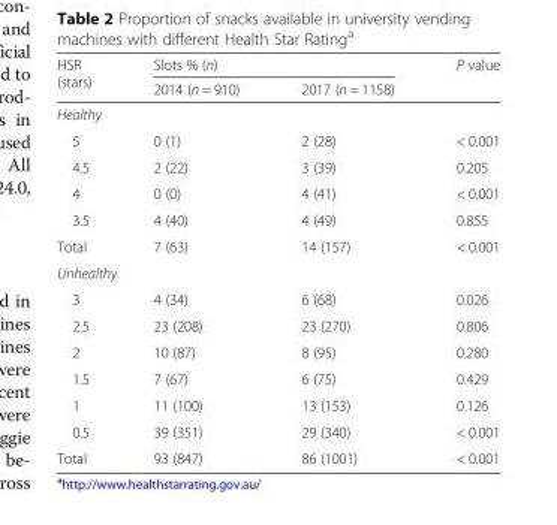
<table><thead><tr><td rowspan="2">HSR (stars)</td><td colspan="2">Slots % (n)</td><td rowspan="2">P value</td></tr><tr><td>2014 (n = 910)</td><td>2017 (n = 1158)</td></tr></thead><tbody><tr><td colspan="4">Healthy</td></tr><tr><td>5</td><td>0 (1)</td><td>2 (28)</td><td>&lt; 0.001</td></tr><tr><td>4.5</td><td>2 (22)</td><td>3 (39)</td><td>0.205</td></tr><tr><td>4</td><td>0 (0)</td><td>4 (41)</td><td>&lt; 0.001</td></tr><tr><td>3.5</td><td>4 (40)</td><td>4 (49)</td><td>0.855</td></tr><tr><td>Total</td><td>7 (63)</td><td>14 (157)</td><td>&lt; 0.001</td></tr><tr><td colspan="4">Unhealthy</td></tr><tr><td>3</td><td>4 (34)</td><td>6 (68)</td><td>0.026</td></tr><tr><td>2.5</td><td>23 (208)</td><td>23 (270)</td><td>0.806</td></tr><tr><td>2</td><td>10 (87)</td><td>8 (95)</td><td>0.280</td></tr><tr><td>1.5</td><td>7 (67)</td><td>6 (75)</td><td>0.429</td></tr><tr><td>1</td><td>11 (100)</td><td>13 (153)</td><td>0.126</td></tr><tr><td>0.5</td><td>39 (351)</td><td>29 (340)</td><td>&lt; 0.001</td></tr><tr><td>Total</td><td>93 (847)</td><td>86 (1001)</td><td>&lt; 0.001</td></tr></tbody></table>